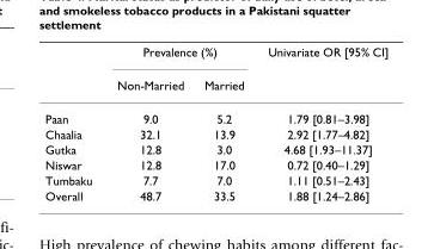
<table><thead><tr><td rowspan="2"></td><td colspan="2">Prevalence (%)</td><td rowspan="2">Univariate OR [95% CI]</td></tr><tr><td>Non-Married</td><td>Married</td></tr></thead><tbody><tr><td>Paan</td><td>9.0</td><td>5.2</td><td>1.79 [0.81–3.98]</td></tr><tr><td>Chaalia</td><td>32.1</td><td>13.9</td><td>2.92 [1.77–4.82]</td></tr><tr><td>Gutka</td><td>12.8</td><td>3.0</td><td>4.68 [1.93–11.37]</td></tr><tr><td>Niswar</td><td>12.8</td><td>17.0</td><td>0.72 [0.40–1.29]</td></tr><tr><td>Tumbaku</td><td>7.7</td><td>7.0</td><td>1.11 [0.51–2.43]</td></tr><tr><td>Overall</td><td>48.7</td><td>33.5</td><td>1.88 [1.24–2.86]</td></tr></tbody></table>